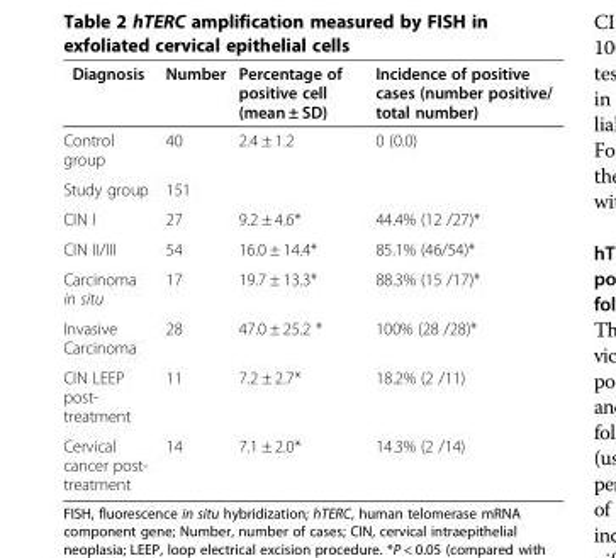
<table><thead><tr><td>Diagnosis</td><td>Number</td><td>Percentage of positive cell (mean ± SD)</td><td>Incidence of positive cases (number positive/ total number)</td></tr></thead><tbody><tr><td>Control group</td><td>40</td><td>2.4 ± 1.2</td><td>0 (0.0)</td></tr><tr><td>Study group</td><td>151</td><td></td><td></td></tr><tr><td>CIN I</td><td>27</td><td>9.2 ± 4.6*</td><td>44.4% (12 /27)*</td></tr><tr><td>CIN II/III</td><td>54</td><td>16.0 ± 14.4*</td><td>85.1% (46/54)*</td></tr><tr><td>Carcinoma in situ</td><td>17</td><td>19.7 ± 13.3*</td><td>88.3% (15 /17)*</td></tr><tr><td>Invasive Carcinoma</td><td>28</td><td>47.0 ± 25.2 *</td><td>100% (28 /28)*</td></tr><tr><td>CIN LEEP post- treatment</td><td>11</td><td>7.2 ± 2.7*</td><td>18.2% (2 /11)</td></tr><tr><td>Cervical cancer post- treatment</td><td>14</td><td>7.1 ± 2.0*</td><td>14.3% (2 /14)</td></tr></tbody></table>